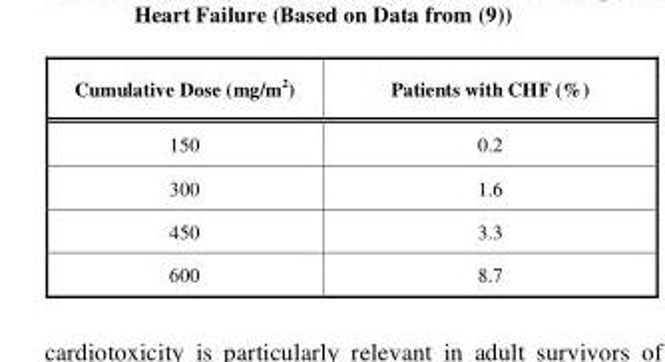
<table><thead><tr><td>Cumulative Dose (mg/m<sup>2</sup>)</td><td>Patients with CHF (%)</td></tr></thead><tbody><tr><td>150</td><td>0.2</td></tr><tr><td>300</td><td>1.6</td></tr><tr><td>450</td><td>3.3</td></tr><tr><td>600</td><td>8.7</td></tr></tbody></table>